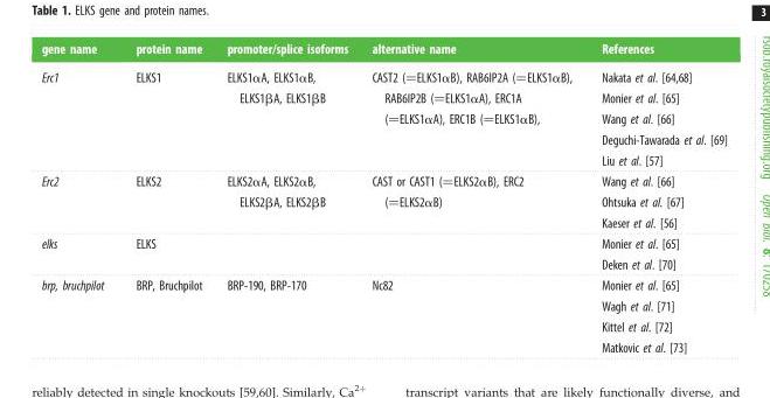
<table><thead><tr><td>gene name</td><td>protein name</td><td>promoter/splice isoforms</td><td>alternative name</td><td>References</td></tr></thead><tbody><tr><td>Erc1</td><td>ELKS1</td><td>ELKS1αA, ELKS1αB, ELKS1βA, ELKS1βB</td><td>CAST2 (=ELKS1αB), RAB6IP2A (=ELKS1αB), RAB6IP2B (=ELKS1αA), ERC1A (=ELKS1αA), ERC1B (=ELKS1αB),</td><td>Nakata et al. [64,68] Monier et al. [65] Wang et al. [66] Deguchi-Tawarada et al. [69] Liu et al. [57]</td></tr><tr><td>Erc2</td><td>ELKS2</td><td>ELKS2αA, ELKS2αB, ELKS2βA, ELKS2βB</td><td>CAST or CAST1 (=ELKS2αB), ERC2 (=ELKS2αB)</td><td>Wang et al. [66] Ohtsuka et al. [67] Kaeser et al. [56]</td></tr><tr><td>elks</td><td>ELKS</td><td></td><td></td><td>Monier et al. [65] Deken et al. [70]</td></tr><tr><td>brp, bruchpilot</td><td>BRP, Bruchpilot</td><td>BRP-190, BRP-170</td><td>Nc82</td><td>Monier et al. [65] Wagh et al. [71] Kittel et al. [72] Matkovic et al. [73]</td></tr></tbody></table>